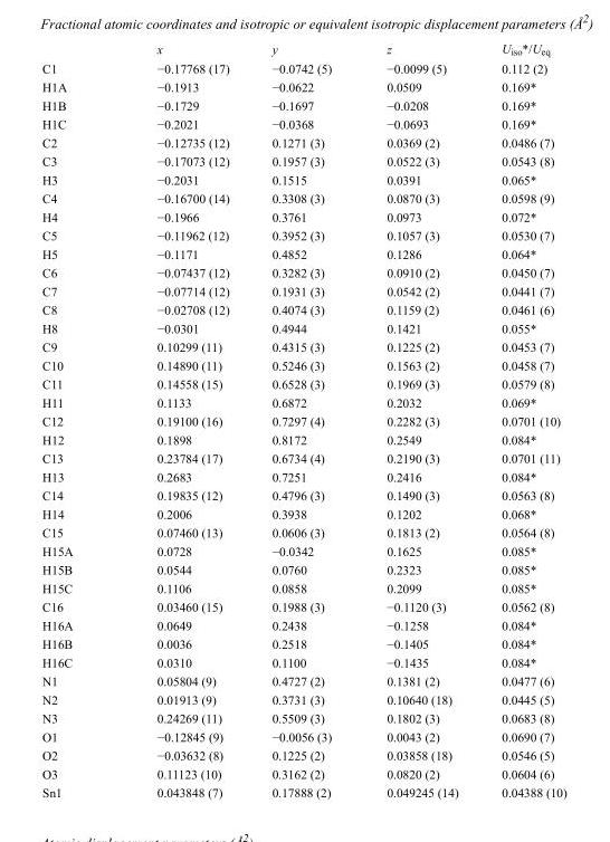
<table><thead><tr><td></td><td>x</td><td>y</td><td>z</td><td>U<sub>iso</sub>*/U<sub>eq</sub></td></tr></thead><tbody><tr><td>C1</td><td>−0.17768 (17)</td><td>−0.0742 (5)</td><td>−0.0099 (5)</td><td>0.112 (2)</td></tr><tr><td>H1A</td><td>−0.1913</td><td>−0.0622</td><td>0.0509</td><td>0.169*</td></tr><tr><td>H1B</td><td>−0.1729</td><td>−0.1697</td><td>−0.0208</td><td>0.169*</td></tr><tr><td>H1C</td><td>−0.2021</td><td>−0.0368</td><td>−0.0693</td><td>0.169*</td></tr><tr><td>C2</td><td>−0.12735 (12)</td><td>0.1271 (3)</td><td>0.0369 (2)</td><td>0.0486 (7)</td></tr><tr><td>C3</td><td>−0.17073 (12)</td><td>0.1957 (3)</td><td>0.0522 (3)</td><td>0.0543 (8)</td></tr><tr><td>H3</td><td>−0.2031</td><td>0.1515</td><td>0.0391</td><td>0.065*</td></tr><tr><td>C4</td><td>−0.16700 (14)</td><td>0.3308 (3)</td><td>0.0870 (3)</td><td>0.0598 (9)</td></tr><tr><td>H4</td><td>−0.1966</td><td>0.3761</td><td>0.0973</td><td>0.072*</td></tr><tr><td>C5</td><td>−0.11962 (12)</td><td>0.3952 (3)</td><td>0.1057 (3)</td><td>0.0530 (7)</td></tr><tr><td>H5</td><td>−0.1171</td><td>0.4852</td><td>0.1286</td><td>0.064*</td></tr><tr><td>C6</td><td>−0.07437 (12)</td><td>0.3282 (3)</td><td>0.0910 (2)</td><td>0.0450 (7)</td></tr><tr><td>C7</td><td>−0.07714 (12)</td><td>0.1931 (3)</td><td>0.0542 (2)</td><td>0.0441 (7)</td></tr><tr><td>C8</td><td>−0.02708 (12)</td><td>0.4074 (3)</td><td>0.1159 (2)</td><td>0.0461 (6)</td></tr><tr><td>H8</td><td>−0.0301</td><td>0.4944</td><td>0.1421</td><td>0.055*</td></tr><tr><td>C9</td><td>0.10299 (11)</td><td>0.4315 (3)</td><td>0.1225 (2)</td><td>0.0453 (7)</td></tr><tr><td>C10</td><td>0.14890 (11)</td><td>0.5246 (3)</td><td>0.1563 (2)</td><td>0.0458 (7)</td></tr><tr><td>C11</td><td>0.14558 (15)</td><td>0.6528 (3)</td><td>0.1969 (3)</td><td>0.0579 (8)</td></tr><tr><td>H11</td><td>0.1133</td><td>0.6872</td><td>0.2032</td><td>0.069*</td></tr><tr><td>C12</td><td>0.19100 (16)</td><td>0.7297 (4)</td><td>0.2282 (3)</td><td>0.0701 (10)</td></tr><tr><td>H12</td><td>0.1898</td><td>0.8172</td><td>0.2549</td><td>0.084*</td></tr><tr><td>C13</td><td>0.23784 (17)</td><td>0.6734 (4)</td><td>0.2190 (3)</td><td>0.0701 (11)</td></tr><tr><td>H13</td><td>0.2683</td><td>0.7251</td><td>0.2416</td><td>0.084*</td></tr><tr><td>C14</td><td>0.19835 (12)</td><td>0.4796 (3)</td><td>0.1490 (3)</td><td>0.0563 (8)</td></tr><tr><td>H14</td><td>0.2006</td><td>0.3938</td><td>0.1202</td><td>0.068*</td></tr><tr><td>C15</td><td>0.07460 (13)</td><td>0.0606 (3)</td><td>0.1813 (2)</td><td>0.0564 (8)</td></tr><tr><td>H15A</td><td>0.0728</td><td>−0.0342</td><td>0.1625</td><td>0.085*</td></tr><tr><td>H15B</td><td>0.0544</td><td>0.0760</td><td>0.2323</td><td>0.085*</td></tr><tr><td>H15C</td><td>0.1106</td><td>0.0858</td><td>0.2099</td><td>0.085*</td></tr><tr><td>C16</td><td>0.03460 (15)</td><td>0.1988 (3)</td><td>−0.1120 (3)</td><td>0.0562 (8)</td></tr><tr><td>H16A</td><td>0.0649</td><td>0.2438</td><td>−0.1258</td><td>0.084*</td></tr><tr><td>H16B</td><td>0.0036</td><td>0.2518</td><td>−0.1405</td><td>0.084*</td></tr><tr><td>H16C</td><td>0.0310</td><td>0.1100</td><td>−0.1435</td><td>0.084*</td></tr><tr><td>N1</td><td>0.05804 (9)</td><td>0.4727 (2)</td><td>0.1381 (2)</td><td>0.0477 (6)</td></tr><tr><td>N2</td><td>0.01913 (9)</td><td>0.3731 (3)</td><td>0.10640 (18)</td><td>0.0445 (5)</td></tr><tr><td>N3</td><td>0.24269 (11)</td><td>0.5509 (3)</td><td>0.1802 (3)</td><td>0.0683 (8)</td></tr><tr><td>O1</td><td>−0.12845 (9)</td><td>−0.0056 (3)</td><td>0.0043 (2)</td><td>0.0690 (7)</td></tr><tr><td>O2</td><td>−0.03632 (8)</td><td>0.1225 (2)</td><td>0.03858 (18)</td><td>0.0546 (5)</td></tr><tr><td>O3</td><td>0.11123 (10)</td><td>0.3162 (2)</td><td>0.0820 (2)</td><td>0.0604 (6)</td></tr><tr><td>Sn1</td><td>0.043848 (7)</td><td>0.17888 (2)</td><td>0.049245 (14)</td><td>0.04388 (10)</td></tr></tbody></table>